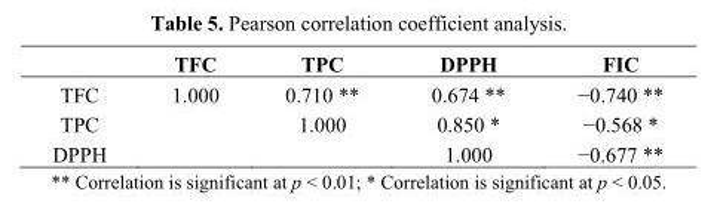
<table><thead><tr><td></td><td>TFC</td><td>TPC</td><td>DPPH</td><td>FIC</td></tr></thead><tbody><tr><td>TFC</td><td>1.000</td><td>0.710 **</td><td>0.674 **</td><td>−0.740 **</td></tr><tr><td>TPC</td><td></td><td>1.000</td><td>0.850 *</td><td>−0.568 *</td></tr><tr><td>DPPH</td><td></td><td></td><td>1.000</td><td>−0.677 **</td></tr></tbody></table>